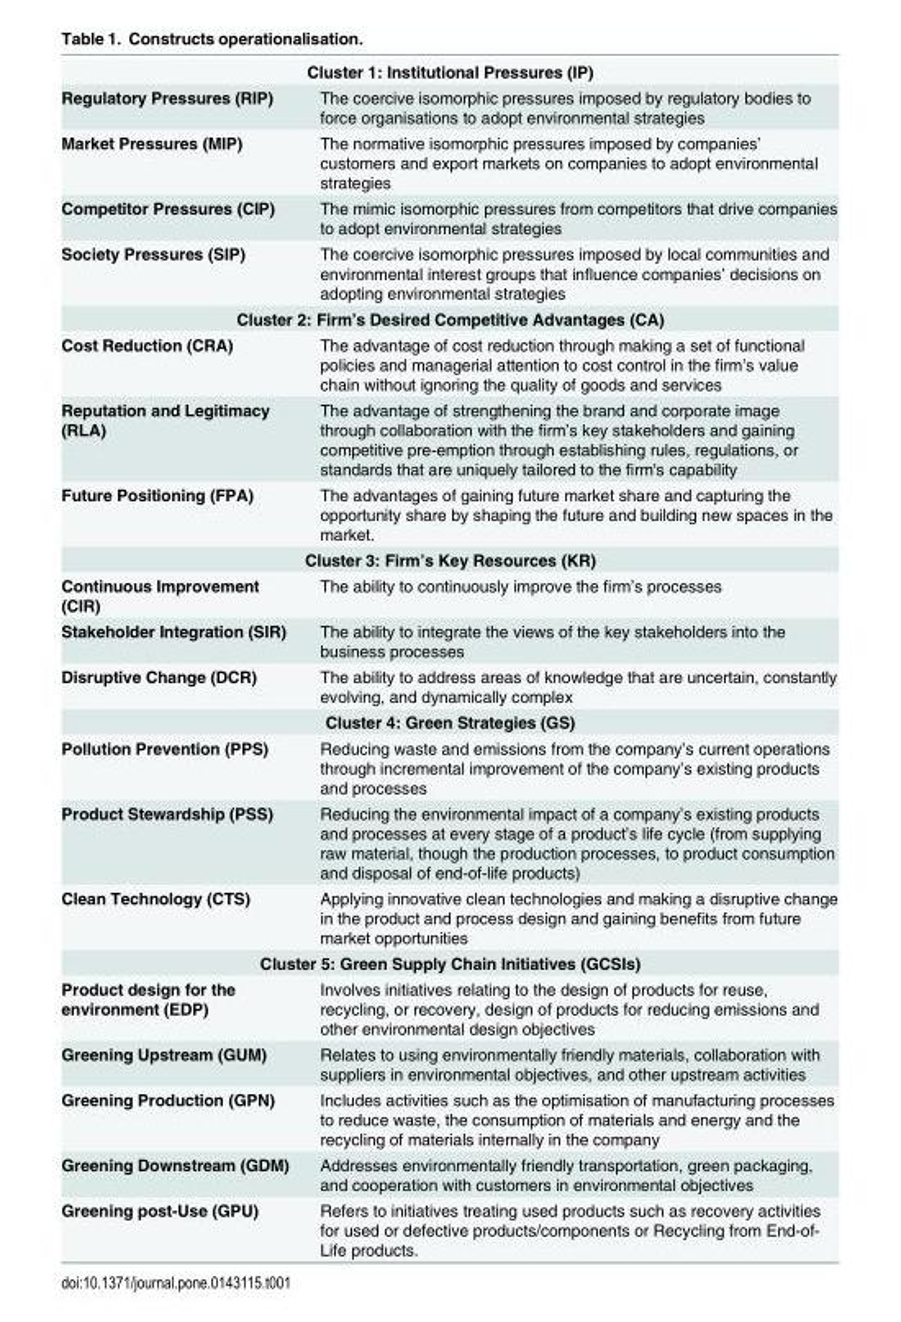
<table><tbody><tr><td colspan="2">Cluster 1: Institutional Pressures (IP)</td></tr><tr><td>Regulatory Pressures (RIP)</td><td>The coercive isomorphic pressures imposed by regulatory bodies to force organisations to adopt environmental strategies</td></tr><tr><td>Market Pressures (MIP)</td><td>The normative isomorphic pressures imposed by companies’ customers and export markets on companies to adopt environmental strategies</td></tr><tr><td>Competitor Pressures (CIP)</td><td>The mimic isomorphic pressures from competitors that drive companies to adopt environmental strategies</td></tr><tr><td>Society Pressures (SIP)</td><td>The coercive isomorphic pressures imposed by local communities and environmental interest groups that influence companies’ decisions on adopting environmental strategies</td></tr><tr><td colspan="2">Cluster 2: Firm’s Desired Competitive Advantages (CA)</td></tr><tr><td>Cost Reduction (CRA)</td><td>The advantage of cost reduction through making a set of functional policies and managerial attention to cost control in the firm’s value chain without ignoring the quality of goods and services</td></tr><tr><td>Reputation and Legitimacy (RLA)</td><td>The advantage of strengthening the brand and corporate image through collaboration with the firm’s key stakeholders and gaining competitive pre-emption through establishing rules, regulations, or standards that are uniquely tailored to the firm&#x27;s capability</td></tr><tr><td>Future Positioning (FPA)</td><td>The advantages of gaining future market share and capturing the opportunity share by shaping the future and building new spaces in the market.</td></tr><tr><td colspan="2">Cluster 3: Firm’s Key Resources (KR)</td></tr><tr><td>Continuous Improvement (CIR)</td><td>The ability to continuously improve the firm’s processes</td></tr><tr><td>Stakeholder Integration (SIR)</td><td>The ability to integrate the views of the key stakeholders into the business processes</td></tr><tr><td>Disruptive Change (DCR)</td><td>The ability to address areas of knowledge that are uncertain, constantly evolving, and dynamically complex</td></tr><tr><td colspan="2">Cluster 4: Green Strategies (GS)</td></tr><tr><td>Pollution Prevention (PPS)</td><td>Reducing waste and emissions from the company’s current operations through incremental improvement of the company’s existing products and processes</td></tr><tr><td>Product Stewardship (PSS)</td><td>Reducing the environmental impact of a company’s existing products and processes at every stage of a product’s life cycle (from supplying raw material, though the production processes, to product consumption and disposal of end-of-life products)</td></tr><tr><td>Clean Technology (CTS)</td><td>Applying innovative clean technologies and making a disruptive change in the product and process design and gaining benefits from future market opportunities</td></tr><tr><td colspan="2">Cluster 5: Green Supply Chain Initiatives (GCSIs)</td></tr><tr><td>Product design for the environment (EDP)</td><td>Involves initiatives relating to the design of products for reuse, recycling, or recovery, design of products for reducing emissions and other environmental design objectives</td></tr><tr><td>Greening Upstream (GUM)</td><td>Relates to using environmentally friendly materials, collaboration with suppliers in environmental objectives, and other upstream activities</td></tr><tr><td>Greening Production (GPN)</td><td>Includes activities such as the optimisation of manufacturing processes to reduce waste, the consumption of materials and energy and the recycling of materials internally in the company</td></tr><tr><td>Greening Downstream (GDM)</td><td>Addresses environmentally friendly transportation, green packaging, and cooperation with customers in environmental objectives</td></tr><tr><td>Greening post-Use (GPU)</td><td>Refers to initiatives treating used products such as recovery activities for used or defective products/components or Recycling from End-of- Life products.</td></tr></tbody></table>